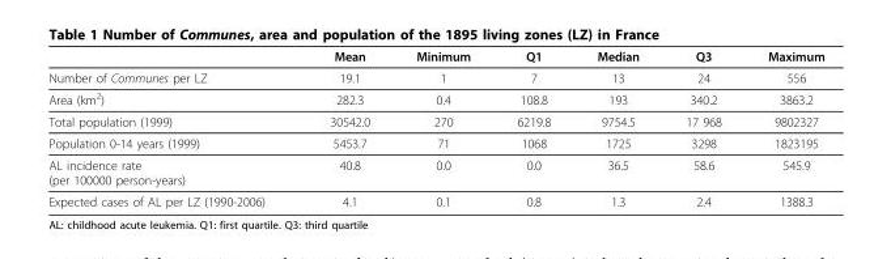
<table><thead><tr><td></td><td>Mean</td><td>Minimum</td><td>Q1</td><td>Median</td><td>Q3</td><td>Maximum</td></tr></thead><tbody><tr><td>Number of Communes per LZ</td><td>19.1</td><td>1</td><td>7</td><td>13</td><td>24</td><td>556</td></tr><tr><td>Area (km<sup>2</sup>)</td><td>282.3</td><td>0.4</td><td>108.8</td><td>193</td><td>340.2</td><td>3863.2</td></tr><tr><td>Total population (1999)</td><td>30542.0</td><td>270</td><td>6219.8</td><td>9754.5</td><td>17 968</td><td>9802327</td></tr><tr><td>Population 0-14 years (1999)</td><td>5453.7</td><td>71</td><td>1068</td><td>1725</td><td>3298</td><td>1823195</td></tr><tr><td>AL incidence rate (per 100000 person-years)</td><td>40.8</td><td>0.0</td><td>0.0</td><td>36.5</td><td>58.6</td><td>545.9</td></tr><tr><td>Expected cases of AL per LZ (1990-2006)</td><td>4.1</td><td>0.1</td><td>0.8</td><td>1.3</td><td>2.4</td><td>1388.3</td></tr></tbody></table>